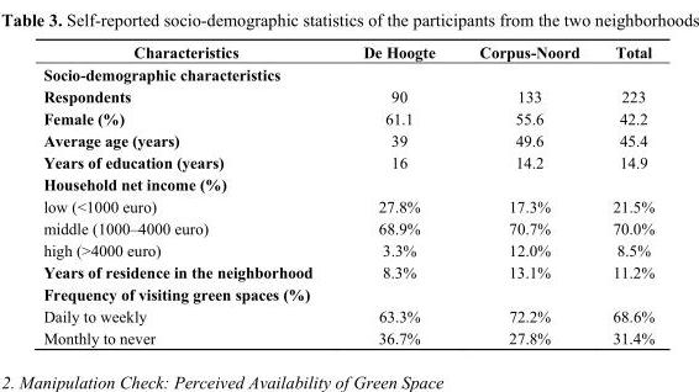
<table><thead><tr><td>Characteristics</td><td>De Hoogte</td><td>Corpus-Noord</td><td>Total</td></tr></thead><tbody><tr><td colspan="4">Socio-demographic characteristics</td></tr><tr><td>Respondents</td><td>90</td><td>133</td><td>223</td></tr><tr><td>Female (%)</td><td>61.1</td><td>55.6</td><td>42.2</td></tr><tr><td>Average age (years)</td><td>39</td><td>49.6</td><td>45.4</td></tr><tr><td>Years of education (years)</td><td>16</td><td>14.2</td><td>14.9</td></tr><tr><td colspan="4">Household net income (%)</td></tr><tr><td>low (&lt;1000 euro)</td><td>27.8%</td><td>17.3%</td><td>21.5%</td></tr><tr><td>middle (1000–4000 euro)</td><td>68.9%</td><td>70.7%</td><td>70.0%</td></tr><tr><td>high (&gt;4000 euro)</td><td>3.3%</td><td>12.0%</td><td>8.5%</td></tr><tr><td>Years of residence in the neighborhood</td><td>8.3%</td><td>13.1%</td><td>11.2%</td></tr><tr><td colspan="4">Frequency of visiting green spaces (%)</td></tr><tr><td>Daily to weekly</td><td>63.3%</td><td>72.2%</td><td>68.6%</td></tr><tr><td>Monthly to never</td><td>36.7%</td><td>27.8%</td><td>31.4%</td></tr></tbody></table>